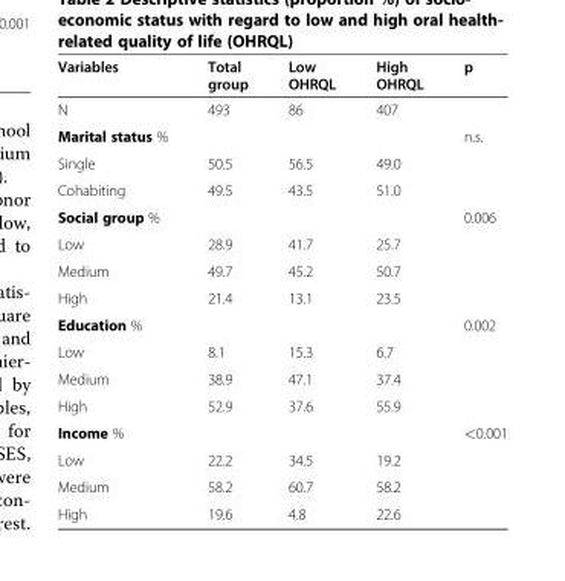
<table><thead><tr><td>Variables</td><td>Total group</td><td>Low OHRQL</td><td>High OHRQL</td><td>p</td></tr></thead><tbody><tr><td>N</td><td>493</td><td>86</td><td>407</td><td></td></tr><tr><td>Marital status %</td><td></td><td></td><td></td><td>n.s.</td></tr><tr><td>Single</td><td>50.5</td><td>56.5</td><td>49.0</td><td></td></tr><tr><td>Cohabiting</td><td>49.5</td><td>43.5</td><td>51.0</td><td></td></tr><tr><td>Social group %</td><td></td><td></td><td></td><td>0.006</td></tr><tr><td>Low</td><td>28.9</td><td>41.7</td><td>25.7</td><td></td></tr><tr><td>Medium</td><td>49.7</td><td>45.2</td><td>50.7</td><td></td></tr><tr><td>High</td><td>21.4</td><td>13.1</td><td>23.5</td><td></td></tr><tr><td>Education %</td><td></td><td></td><td></td><td>0.002</td></tr><tr><td>Low</td><td>8.1</td><td>15.3</td><td>6.7</td><td></td></tr><tr><td>Medium</td><td>38.9</td><td>47.1</td><td>37.4</td><td></td></tr><tr><td>High</td><td>52.9</td><td>37.6</td><td>55.9</td><td></td></tr><tr><td>Income %</td><td></td><td></td><td></td><td>&lt;0.001</td></tr><tr><td>Low</td><td>22.2</td><td>34.5</td><td>19.2</td><td></td></tr><tr><td>Medium</td><td>58.2</td><td>60.7</td><td>58.2</td><td></td></tr><tr><td>High</td><td>19.6</td><td>4.8</td><td>22.6</td><td></td></tr></tbody></table>